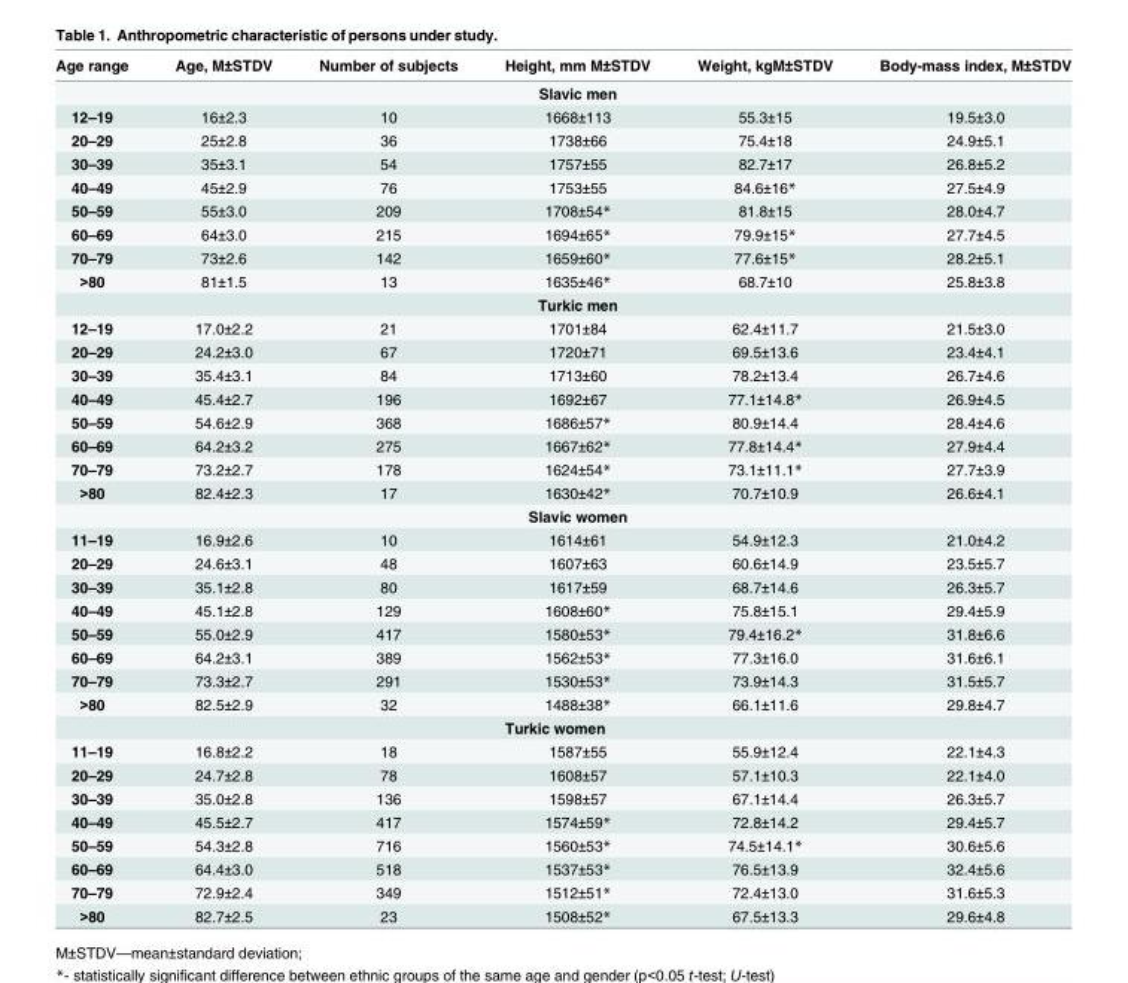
<table><thead><tr><td>Age range</td><td>Age, M±STDV</td><td>Number of subjects</td><td>Height, mm M±STDV</td><td>Weight, kgM±STDV</td><td>Body-mass index, M±STDV</td></tr></thead><tbody><tr><td></td><td></td><td></td><td>Slavic men</td><td></td><td></td></tr><tr><td>12–19</td><td>16±2.3</td><td>10</td><td>1668±113</td><td>55.3±15</td><td>19.5±3.0</td></tr><tr><td>20–29</td><td>25±2.8</td><td>36</td><td>1738±66</td><td>75.4±18</td><td>24.9±5.1</td></tr><tr><td>30–39</td><td>35±3.1</td><td>54</td><td>1757±55</td><td>82.7±17</td><td>26.8±5.2</td></tr><tr><td>40–49</td><td>45±2.9</td><td>76</td><td>1753±55</td><td>84.6±16*</td><td>27.5±4.9</td></tr><tr><td>50–59</td><td>55±3.0</td><td>209</td><td>1708±54*</td><td>81.8±15</td><td>28.0±4.7</td></tr><tr><td>60–69</td><td>64±3.0</td><td>215</td><td>1694±65*</td><td>79.9±15*</td><td>27.7±4.5</td></tr><tr><td>70–79</td><td>73±2.6</td><td>142</td><td>1659±60*</td><td>77.6±15*</td><td>28.2±5.1</td></tr><tr><td rowspan="2">&gt;80</td><td>81±1.5</td><td>13</td><td>1635±46*</td><td>68.7±10</td><td>25.8±3.8</td></tr><tr><td></td><td></td><td>Turkic men</td><td></td><td></td></tr><tr><td>12–19</td><td>17.0±2.2</td><td>21</td><td>1701±84</td><td>62.4±11.7</td><td>21.5±3.0</td></tr><tr><td>20–29</td><td>24.2±3.0</td><td>67</td><td>1720±71</td><td>69.5±13.6</td><td>23.4±4.1</td></tr><tr><td>30–39</td><td>35.4±3.1</td><td>84</td><td>1713±60</td><td>78.2±13.4</td><td>26.7±4.6</td></tr><tr><td>40–49</td><td>45.4±2.7</td><td>196</td><td>1692±67</td><td>77.1±14.8*</td><td>26.9±4.5</td></tr><tr><td>50–59</td><td>54.6±2.9</td><td>368</td><td>1686±57*</td><td>80.9±14.4</td><td>28.4±4.6</td></tr><tr><td>60–69</td><td>64.2±3.2</td><td>275</td><td>1667±62*</td><td>77.8±14.4*</td><td>27.9±4.4</td></tr><tr><td>70–79</td><td>73.2±2.7</td><td>178</td><td>1624±54*</td><td>73.1±11.1*</td><td>27.7±3.9</td></tr><tr><td rowspan="2">&gt;80</td><td>82.4±2.3</td><td>17</td><td>1630±42*</td><td>70.7±10.9</td><td>26.6±4.1</td></tr><tr><td></td><td></td><td>Slavic women</td><td></td><td></td></tr><tr><td>11–19</td><td>16.9±2.6</td><td>10</td><td>1614±61</td><td>54.9±12.3</td><td>21.0±4.2</td></tr><tr><td>20–29</td><td>24.6±3.1</td><td>48</td><td>1607±63</td><td>60.6±14.9</td><td>23.5±5.7</td></tr><tr><td>30–39</td><td>35.1±2.8</td><td>80</td><td>1617±59</td><td>68.7±14.6</td><td>26.3±5.7</td></tr><tr><td>40–49</td><td>45.1±2.8</td><td>129</td><td>1608±60*</td><td>75.8±15.1</td><td>29.4±5.9</td></tr><tr><td>50–59</td><td>55.0±2.9</td><td>417</td><td>1580±53*</td><td>79.4±16.2*</td><td>31.8±6.6</td></tr><tr><td>60–69</td><td>64.2±3.1</td><td>389</td><td>1562±53*</td><td>77.3±16.0</td><td>31.6±6.1</td></tr><tr><td>70–79</td><td>73.3±2.7</td><td>291</td><td>1530±53*</td><td>73.9±14.3</td><td>31.5±5.7</td></tr><tr><td rowspan="2">&gt;80</td><td>82.5±2.9</td><td>32</td><td>1488±38*</td><td>66.1±11.6</td><td>29.8±4.7</td></tr><tr><td></td><td></td><td>Turkic women</td><td></td><td></td></tr><tr><td>11–19</td><td>16.8±2.2</td><td>18</td><td>1587±55</td><td>55.9±12.4</td><td>22.1±4.3</td></tr><tr><td>20–29</td><td>24.7±2.8</td><td>78</td><td>1608±57</td><td>57.1±10.3</td><td>22.1±4.0</td></tr><tr><td>30–39</td><td>35.0±2.8</td><td>136</td><td>1598±57</td><td>67.1±14.4</td><td>26.3±5.7</td></tr><tr><td>40–49</td><td>45.5±2.7</td><td>417</td><td>1574±59*</td><td>72.8±14.2</td><td>29.4±5.7</td></tr><tr><td>50–59</td><td>54.3±2.8</td><td>716</td><td>1560±53*</td><td>74.5±14.1*</td><td>30.6±5.6</td></tr><tr><td>60–69</td><td>64.4±3.0</td><td>518</td><td>1537±53*</td><td>76.5±13.9</td><td>32.4±5.6</td></tr><tr><td>70–79</td><td>72.9±2.4</td><td>349</td><td>1512±51*</td><td>72.4±13.0</td><td>31.6±5.3</td></tr><tr><td>&gt;80</td><td>82.7±2.5</td><td>23</td><td>1508±52*</td><td>67.5±13.3</td><td>29.6±4.8</td></tr></tbody></table>